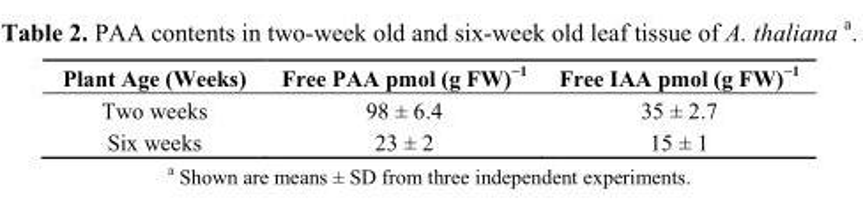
<table><thead><tr><td>Plant Age (Weeks)</td><td>Free PAA pmol (g FW)<sup>−1</sup></td><td>Free IAA pmol (g FW)<sup>−1</sup></td></tr></thead><tbody><tr><td>Two weeks</td><td>98 ± 6.4</td><td>35 ± 2.7</td></tr><tr><td>Six weeks</td><td>23 ± 2</td><td>15 ± 1</td></tr></tbody></table>